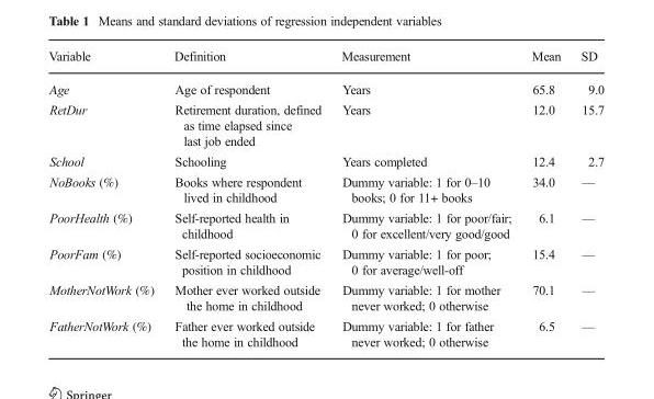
<table><thead><tr><td>Variable</td><td>Definition</td><td>Measurement</td><td>Mean</td><td>SD</td></tr></thead><tbody><tr><td>Age</td><td>Age of respondent</td><td>Years</td><td>65.8</td><td>9.0</td></tr><tr><td>RetDur</td><td>Retirement duration, defined as time elapsed since last job ended</td><td>Years</td><td>12.0</td><td>15.7</td></tr><tr><td>School</td><td>Schooling</td><td>Years completed</td><td>12.4</td><td>2.7</td></tr><tr><td>NoBooks (%)</td><td>Books where respondent lived in childhood</td><td>Dummy variable: 1 for 0–10 books; 0 for 11+ books</td><td>34.0</td><td>––</td></tr><tr><td>PoorHealth (%)</td><td>Self-reported health in childhood</td><td>Dummy variable: 1 for poor/fair; 0 for excellent/very good/good</td><td>6.1</td><td>––</td></tr><tr><td>PoorFam (%)</td><td>Self-reported socioeconomic position in childhood</td><td>Dummy variable: 1 for poor; 0 for average/well-off</td><td>15.4</td><td>––</td></tr><tr><td>MotherNotWork (%)</td><td>Mother ever worked outside the home in childhood</td><td>Dummy variable: 1 for mother never worked; 0 otherwise</td><td>70.1</td><td>––</td></tr><tr><td>FatherNotWork (%)</td><td>Father ever worked outside the home in childhood</td><td>Dummy variable: 1 for father never worked; 0 otherwise</td><td>6.5</td><td>––</td></tr></tbody></table>